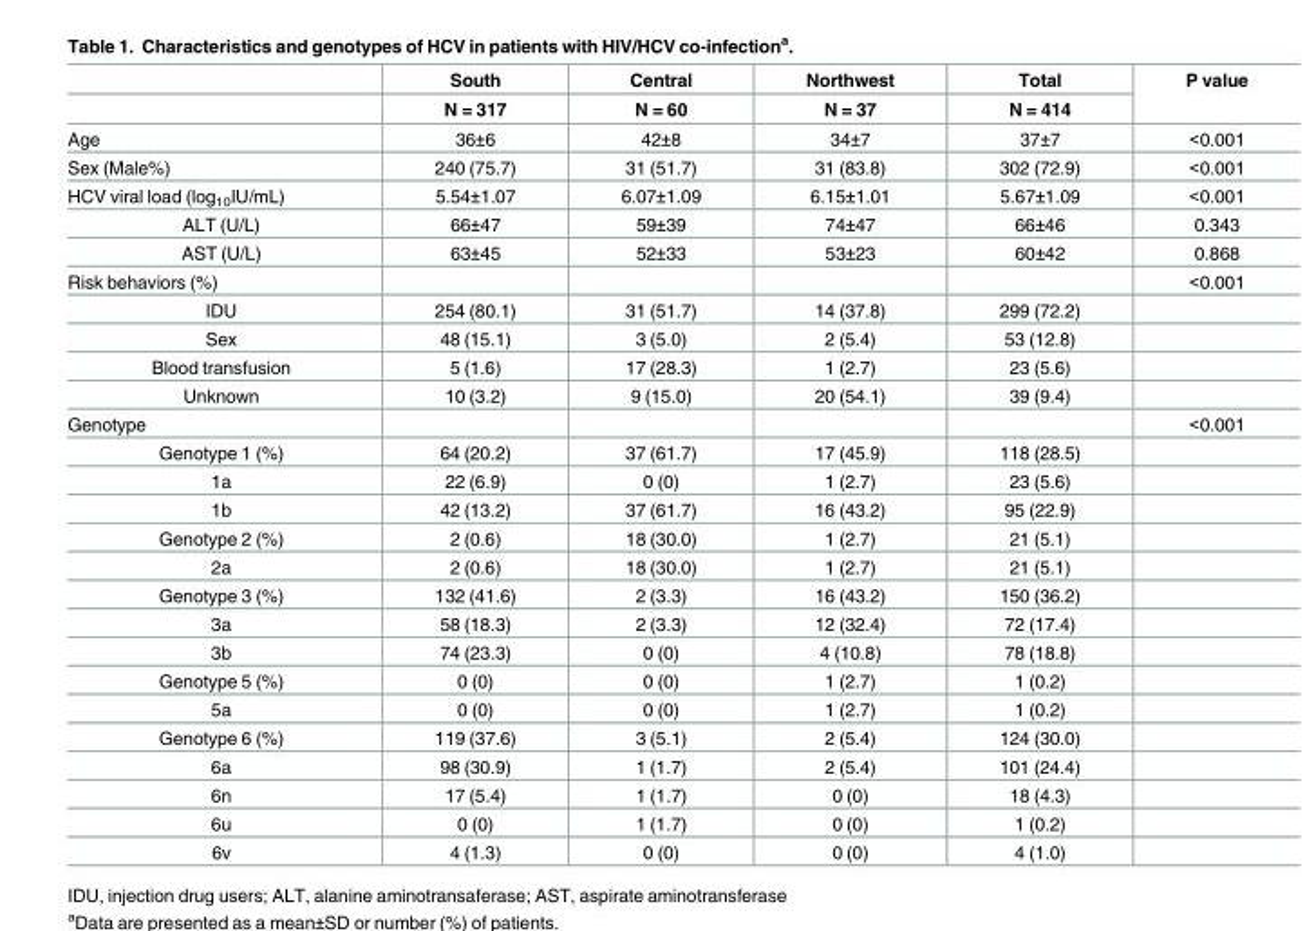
<table><thead><tr><td rowspan="2"></td><td rowspan="2">South N = 317</td><td rowspan="2">Central N = 60</td><td rowspan="2">Northwest N = 37</td><td rowspan="2">Total N = 414</td><td rowspan="2">P value</td></tr><tr></tr></thead><tbody><tr><td>Age</td><td>36±6</td><td>42±8</td><td>34±7</td><td>37±7</td><td>&lt;0.001</td></tr><tr><td>Sex (Male%)</td><td>240 (75.7)</td><td>31 (51.7)</td><td>31 (83.8)</td><td>302 (72.9)</td><td>&lt;0.001</td></tr><tr><td>HCV viral load (log<sub>10</sub>IU/mL)</td><td>5.54±1.07</td><td>6.07±1.09</td><td>6.15±1.01</td><td>5.67±1.09</td><td>&lt;0.001</td></tr><tr><td>ALT (U/L)</td><td>66±47</td><td>59±39</td><td>74±47</td><td>66±46</td><td>0.343</td></tr><tr><td>AST (U/L)</td><td>63±45</td><td>52±33</td><td>53±23</td><td>60±42</td><td>0.868</td></tr><tr><td>Risk behaviors (%)</td><td></td><td></td><td></td><td></td><td>&lt;0.001</td></tr><tr><td>IDU</td><td>254 (80.1)</td><td>31 (51.7)</td><td>14 (37.8)</td><td>299 (72.2)</td><td></td></tr><tr><td>Sex</td><td>48 (15.1)</td><td>3 (5.0)</td><td>2 (5.4)</td><td>53 (12.8)</td><td></td></tr><tr><td>Blood transfusion</td><td>5 (1.6)</td><td>17 (28.3)</td><td>1 (2.7)</td><td>23 (5.6)</td><td></td></tr><tr><td>Unknown</td><td>10 (3.2)</td><td>9 (15.0)</td><td>20 (54.1)</td><td>39 (9.4)</td><td></td></tr><tr><td>Genotype</td><td></td><td></td><td></td><td></td><td>&lt;0.001</td></tr><tr><td>Genotype 1 (%)</td><td>64 (20.2)</td><td>37 (61.7)</td><td>17 (45.9)</td><td>118 (28.5)</td><td></td></tr><tr><td>1a</td><td>22 (6.9)</td><td>0 (0)</td><td>1 (2.7)</td><td>23 (5.6)</td><td></td></tr><tr><td>1b</td><td>42 (13.2)</td><td>37 (61.7)</td><td>16 (43.2)</td><td>95 (22.9)</td><td></td></tr><tr><td>Genotype 2 (%)</td><td>2 (0.6)</td><td>18 (30.0)</td><td>1 (2.7)</td><td>21 (5.1)</td><td></td></tr><tr><td>2a</td><td>2 (0.6)</td><td>18 (30.0)</td><td>1 (2.7)</td><td>21 (5.1)</td><td></td></tr><tr><td>Genotype 3 (%)</td><td>132 (41.6)</td><td>2 (3.3)</td><td>16 (43.2)</td><td>150 (36.2)</td><td></td></tr><tr><td>3a</td><td>58 (18.3)</td><td>2 (3.3)</td><td>12 (32.4)</td><td>72 (17.4)</td><td></td></tr><tr><td>3b</td><td>74 (23.3)</td><td>0 (0)</td><td>4 (10.8)</td><td>78 (18.8)</td><td></td></tr><tr><td>Genotype 5 (%)</td><td>0 (0)</td><td>0 (0)</td><td>1 (2.7)</td><td>1 (0.2)</td><td></td></tr><tr><td>5a</td><td>0 (0)</td><td>0 (0)</td><td>1 (2.7)</td><td>1 (0.2)</td><td></td></tr><tr><td>Genotype 6 (%)</td><td>119 (37.6)</td><td>3 (5.1)</td><td>2 (5.4)</td><td>124 (30.0)</td><td></td></tr><tr><td>6a</td><td>98 (30.9)</td><td>1 (1.7)</td><td>2 (5.4)</td><td>101 (24.4)</td><td></td></tr><tr><td>6n</td><td>17 (5.4)</td><td>1 (1.7)</td><td>0 (0)</td><td>18 (4.3)</td><td></td></tr><tr><td>6u</td><td>0 (0)</td><td>1 (1.7)</td><td>0 (0)</td><td>1 (0.2)</td><td></td></tr><tr><td>6v</td><td>4 (1.3)</td><td>0 (0)</td><td>0 (0)</td><td>4 (1.0)</td><td></td></tr></tbody></table>